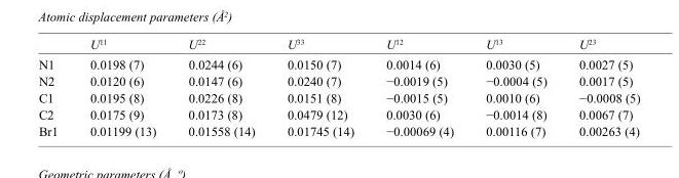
<table><thead><tr><td></td><td>U<sup>11</sup></td><td>U<sup>22</sup></td><td>U<sup>33</sup></td><td>U<sup>12</sup></td><td>U<sup>13</sup></td><td>U<sup>23</sup></td></tr></thead><tbody><tr><td>N1</td><td>0.0198 (7)</td><td>0.0244 (6)</td><td>0.0150 (7)</td><td>0.0014 (6)</td><td>0.0030 (5)</td><td>0.0027 (5)</td></tr><tr><td>N2</td><td>0.0120 (6)</td><td>0.0147 (6)</td><td>0.0240 (7)</td><td>−0.0019 (5)</td><td>−0.0004 (5)</td><td>0.0017 (5)</td></tr><tr><td>C1</td><td>0.0195 (8)</td><td>0.0226 (8)</td><td>0.0151 (8)</td><td>−0.0015 (5)</td><td>0.0010 (6)</td><td>−0.0008 (5)</td></tr><tr><td>C2</td><td>0.0175 (9)</td><td>0.0173 (8)</td><td>0.0479 (12)</td><td>0.0030 (6)</td><td>−0.0014 (8)</td><td>0.0067 (7)</td></tr><tr><td>Br1</td><td>0.01199 (13)</td><td>0.01558 (14)</td><td>0.01745 (14)</td><td>−0.00069 (4)</td><td>0.00116 (7)</td><td>0.00263 (4)</td></tr></tbody></table>